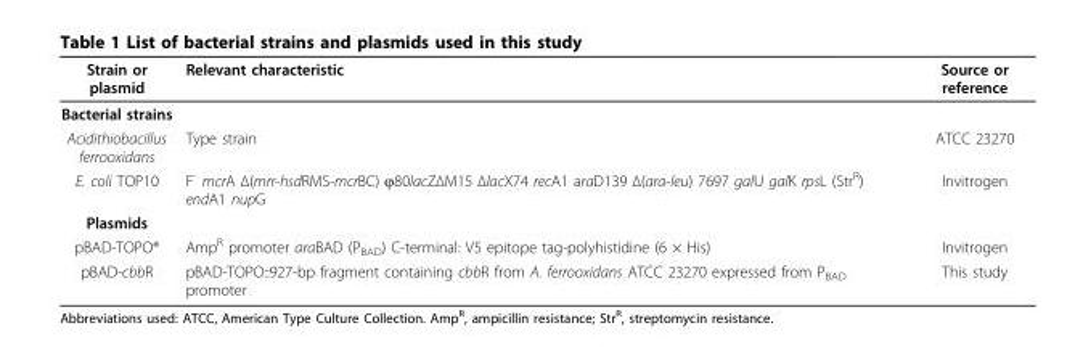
<table><thead><tr><td>Strain or plasmid</td><td>Relevant characteristic</td><td>Source or reference</td></tr></thead><tbody><tr><td colspan="3">Bacterial strains</td></tr><tr><td>Acidithiobacillus ferrooxidans</td><td>Type strain</td><td>ATCC 23270</td></tr><tr><td>E. coli TOP10</td><td>F<sup>-</sup> mcrA Δ(mrr-hsdRMS-mcrBC) ϕ80lacZΔM15 ΔlacX74 recA1 araD139 Δ(ara-leu) 7697 galU galK rpsL (Str<sup>R</sup>) endA1 nupG</td><td>Invitrogen</td></tr><tr><td colspan="3">Plasmids</td></tr><tr><td>pBAD-TOPO<sup>®</sup></td><td>Amp<sup>R</sup> promoter araBAD (P<sub>BAD</sub>) C-terminal: V5 epitope tag-polyhistidine (6 × His)</td><td>Invitrogen</td></tr><tr><td>pBAD-cbbR</td><td>pBAD-TOPO::927-bp fragment containing cbbR from A. ferrooxidans ATCC 23270 expressed from P<sub>BAD</sub> promoter</td><td>This study</td></tr></tbody></table>